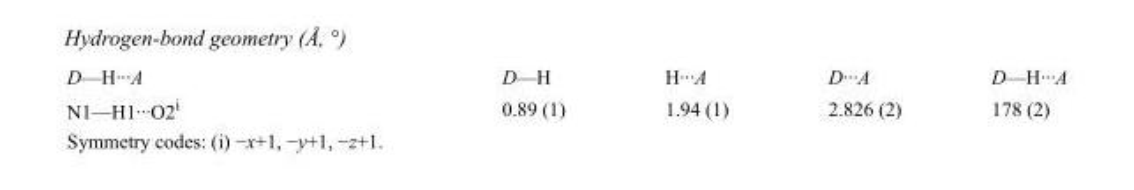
<table><tbody><tr><td>D—H···A</td><td>D—H</td><td>H···A</td><td>D···A</td><td>D—H···A</td></tr><tr><td>N1—H1···O2<sup>i</sup></td><td>0.89 (1)</td><td>1.94 (1)</td><td>2.826 (2)</td><td>178 (2)</td></tr></tbody></table>